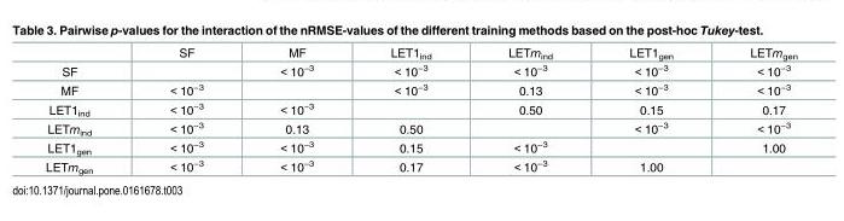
<table><thead><tr><td></td><td>SF</td><td>MF</td><td>LET1<sub>ind</sub></td><td>LETm<sub>ind</sub></td><td>LET1<sub>gen</sub></td><td>LETm<sub>gen</sub></td></tr></thead><tbody><tr><td>SF</td><td></td><td>&lt; 10<sup>−3</sup></td><td>&lt; 10<sup>−3</sup></td><td>&lt; 10<sup>−3</sup></td><td>&lt; 10<sup>−3</sup></td><td>&lt; 10<sup>−3</sup></td></tr><tr><td>MF</td><td>&lt; 10<sup>−3</sup></td><td></td><td>&lt; 10<sup>−3</sup></td><td>0.13</td><td>&lt; 10<sup>−3</sup></td><td>&lt; 10<sup>−3</sup></td></tr><tr><td>LET1<sub>ind</sub></td><td>&lt; 10<sup>−3</sup></td><td>&lt; 10<sup>−3</sup></td><td></td><td>0.50</td><td>0.15</td><td>0.17</td></tr><tr><td>LETm<sub>ind</sub></td><td>&lt; 10<sup>−3</sup></td><td>0.13</td><td>0.50</td><td></td><td>&lt; 10<sup>−3</sup></td><td>&lt; 10<sup>−3</sup></td></tr><tr><td>LET1<sub>gen</sub></td><td>&lt; 10<sup>−3</sup></td><td>&lt; 10<sup>−3</sup></td><td>0.15</td><td>&lt; 10<sup>−3</sup></td><td></td><td>1.00</td></tr><tr><td>LETm<sub>gen</sub></td><td>&lt; 10<sup>−3</sup></td><td>&lt; 10<sup>−3</sup></td><td>0.17</td><td>&lt; 10<sup>−3</sup></td><td>1.00</td><td></td></tr></tbody></table>